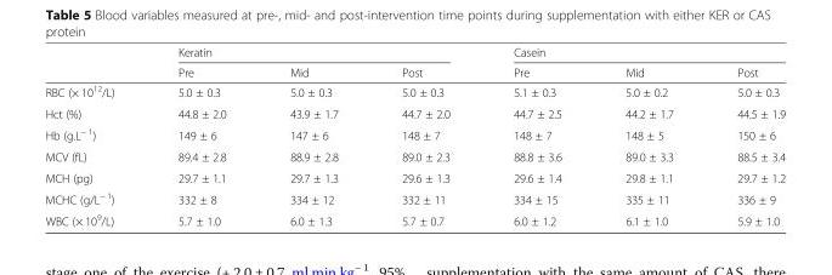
<table><thead><tr><td rowspan="2"></td><td colspan="3">Keratin</td><td colspan="3">Casein</td></tr><tr><td>Pre</td><td>Mid</td><td>Post</td><td>Pre</td><td>Mid</td><td>Post</td></tr></thead><tbody><tr><td>RBC (× 10<sup>12</sup>/L)</td><td>5.0 ± 0.3</td><td>5.0 ± 0.3</td><td>5.0 ± 0.3</td><td>5.1 ± 0.3</td><td>5.0 ± 0.2</td><td>5.0 ± 0.3</td></tr><tr><td>Hct (%)</td><td>44.8 ± 2.0</td><td>43.9 ± 1.7</td><td>44.7 ± 2.0</td><td>44.7 ± 2.5</td><td>44.2 ± 1.7</td><td>44.5 ± 1.9</td></tr><tr><td>Hb (g.L<sup>− 1</sup>)</td><td>149 ± 6</td><td>147 ± 6</td><td>148 ± 7</td><td>148 ± 7</td><td>148 ± 5</td><td>150 ± 6</td></tr><tr><td>MCV (fL)</td><td>89.4 ± 2.8</td><td>88.9 ± 2.8</td><td>89.0 ± 2.3</td><td>88.8 ± 3.6</td><td>89.0 ± 3.3</td><td>88.5 ± 3.4</td></tr><tr><td>MCH (pg)</td><td>29.7 ± 1.1</td><td>29.7 ± 1.3</td><td>29.6 ± 1.3</td><td>29.6 ± 1.4</td><td>29.8 ± 1.1</td><td>29.7 ± 1.2</td></tr><tr><td>MCHC (g/L<sup>− 1</sup>)</td><td>332 ± 8</td><td>334 ± 12</td><td>332 ± 11</td><td>334 ± 15</td><td>335 ± 11</td><td>336 ± 9</td></tr><tr><td>WBC (× 10<sup>9</sup>/L)</td><td>5.7 ± 1.0</td><td>6.0 ± 1.3</td><td>5.7 ± 0.7</td><td>6.0 ± 1.2</td><td>6.1 ± 1.0</td><td>5.9 ± 1.0</td></tr></tbody></table>